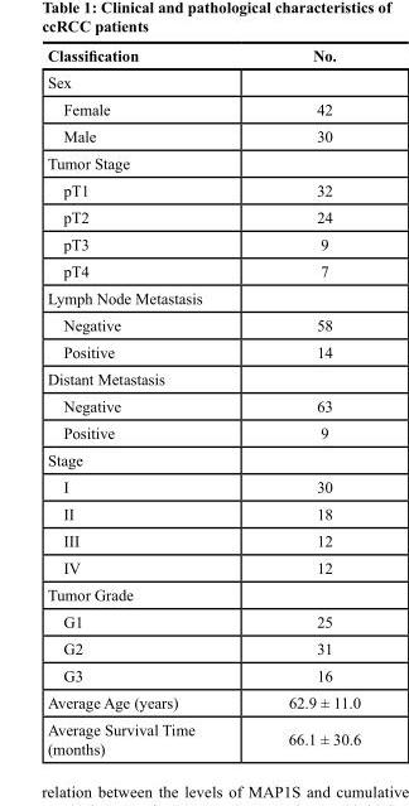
<table><thead><tr><td>Classification</td><td>No.</td></tr></thead><tbody><tr><td colspan="2">Sex</td></tr><tr><td>Female</td><td>42</td></tr><tr><td>Male</td><td>30</td></tr><tr><td colspan="2">Tumor Stage</td></tr><tr><td>pT1</td><td>32</td></tr><tr><td>pT2</td><td>24</td></tr><tr><td>pT3</td><td>9</td></tr><tr><td>pT4</td><td>7</td></tr><tr><td colspan="2">Lymph Node Metastasis</td></tr><tr><td>Negative</td><td>58</td></tr><tr><td>Positive</td><td>14</td></tr><tr><td colspan="2">Distant Metastasis</td></tr><tr><td>Negative</td><td>63</td></tr><tr><td>Positive</td><td>9</td></tr><tr><td colspan="2">Stage</td></tr><tr><td>I</td><td>30</td></tr><tr><td>II</td><td>18</td></tr><tr><td>III</td><td>12</td></tr><tr><td>IV</td><td>12</td></tr><tr><td colspan="2">Tumor Grade</td></tr><tr><td>G1</td><td>25</td></tr><tr><td>G2</td><td>31</td></tr><tr><td>G3</td><td>16</td></tr><tr><td>Average Age (years)</td><td>62.9 ± 11.0</td></tr><tr><td>Average Survival Time (months)</td><td>66.1 ± 30.6</td></tr></tbody></table>